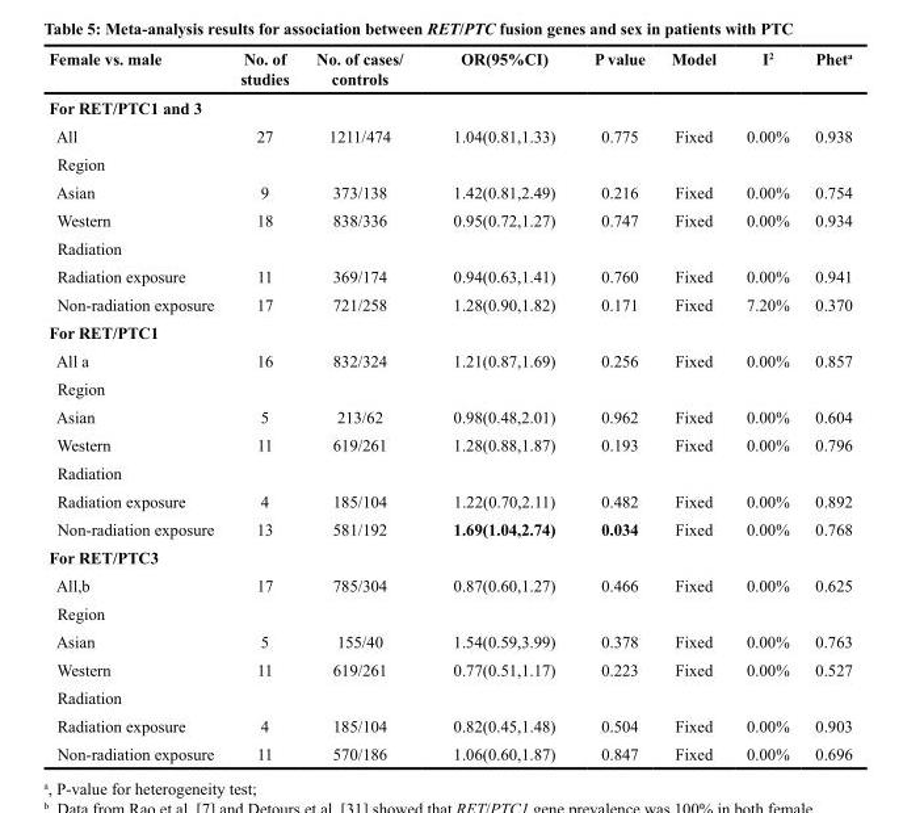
<table><thead><tr><td>Female vs. male</td><td>No. of studies</td><td>No. of cases/ controls</td><td>OR(95%CI)</td><td>P value</td><td>Model</td><td>I2</td><td>Phet<sup>a</sup></td></tr></thead><tbody><tr><td colspan="8">For RET/PTC1 and 3</td></tr><tr><td>All</td><td>27</td><td>1211/474</td><td>1.04(0.81,1.33)</td><td>0.775</td><td>Fixed</td><td>0.00%</td><td>0.938</td></tr><tr><td colspan="8">Region</td></tr><tr><td>Asian</td><td>9</td><td>373/138</td><td>1.42(0.81,2.49)</td><td>0.216</td><td>Fixed</td><td>0.00%</td><td>0.754</td></tr><tr><td>Western</td><td>18</td><td>838/336</td><td>0.95(0.72,1.27)</td><td>0.747</td><td>Fixed</td><td>0.00%</td><td>0.934</td></tr><tr><td colspan="8">Radiation</td></tr><tr><td>Radiation exposure</td><td>11</td><td>369/174</td><td>0.94(0.63,1.41)</td><td>0.760</td><td>Fixed</td><td>0.00%</td><td>0.941</td></tr><tr><td>Non-radiation exposure</td><td>17</td><td>721/258</td><td>1.28(0.90,1.82)</td><td>0.171</td><td>Fixed</td><td>7.20%</td><td>0.370</td></tr><tr><td colspan="8">For RET/PTC1</td></tr><tr><td>All a</td><td>16</td><td>832/324</td><td>1.21(0.87,1.69)</td><td>0.256</td><td>Fixed</td><td>0.00%</td><td>0.857</td></tr><tr><td colspan="8">Region</td></tr><tr><td>Asian</td><td>5</td><td>213/62</td><td>0.98(0.48,2.01)</td><td>0.962</td><td>Fixed</td><td>0.00%</td><td>0.604</td></tr><tr><td>Western</td><td>11</td><td>619/261</td><td>1.28(0.88,1.87)</td><td>0.193</td><td>Fixed</td><td>0.00%</td><td>0.796</td></tr><tr><td colspan="8">Radiation</td></tr><tr><td>Radiation exposure</td><td>4</td><td>185/104</td><td>1.22(0.70,2.11)</td><td>0.482</td><td>Fixed</td><td>0.00%</td><td>0.892</td></tr><tr><td>Non-radiation exposure</td><td>13</td><td>581/192</td><td>1.69(1.04,2.74)</td><td>0.034</td><td>Fixed</td><td>0.00%</td><td>0.768</td></tr><tr><td colspan="8">For RET/PTC3</td></tr><tr><td>All,b</td><td>17</td><td>785/304</td><td>0.87(0.60,1.27)</td><td>0.466</td><td>Fixed</td><td>0.00%</td><td>0.625</td></tr><tr><td colspan="8">Region</td></tr><tr><td>Asian</td><td>5</td><td>155/40</td><td>1.54(0.59,3.99)</td><td>0.378</td><td>Fixed</td><td>0.00%</td><td>0.763</td></tr><tr><td>Western</td><td>11</td><td>619/261</td><td>0.77(0.51,1.17)</td><td>0.223</td><td>Fixed</td><td>0.00%</td><td>0.527</td></tr><tr><td colspan="8">Radiation</td></tr><tr><td>Radiation exposure</td><td>4</td><td>185/104</td><td>0.82(0.45,1.48)</td><td>0.504</td><td>Fixed</td><td>0.00%</td><td>0.903</td></tr><tr><td>Non-radiation exposure</td><td>11</td><td>570/186</td><td>1.06(0.60,1.87)</td><td>0.847</td><td>Fixed</td><td>0.00%</td><td>0.696</td></tr></tbody></table>